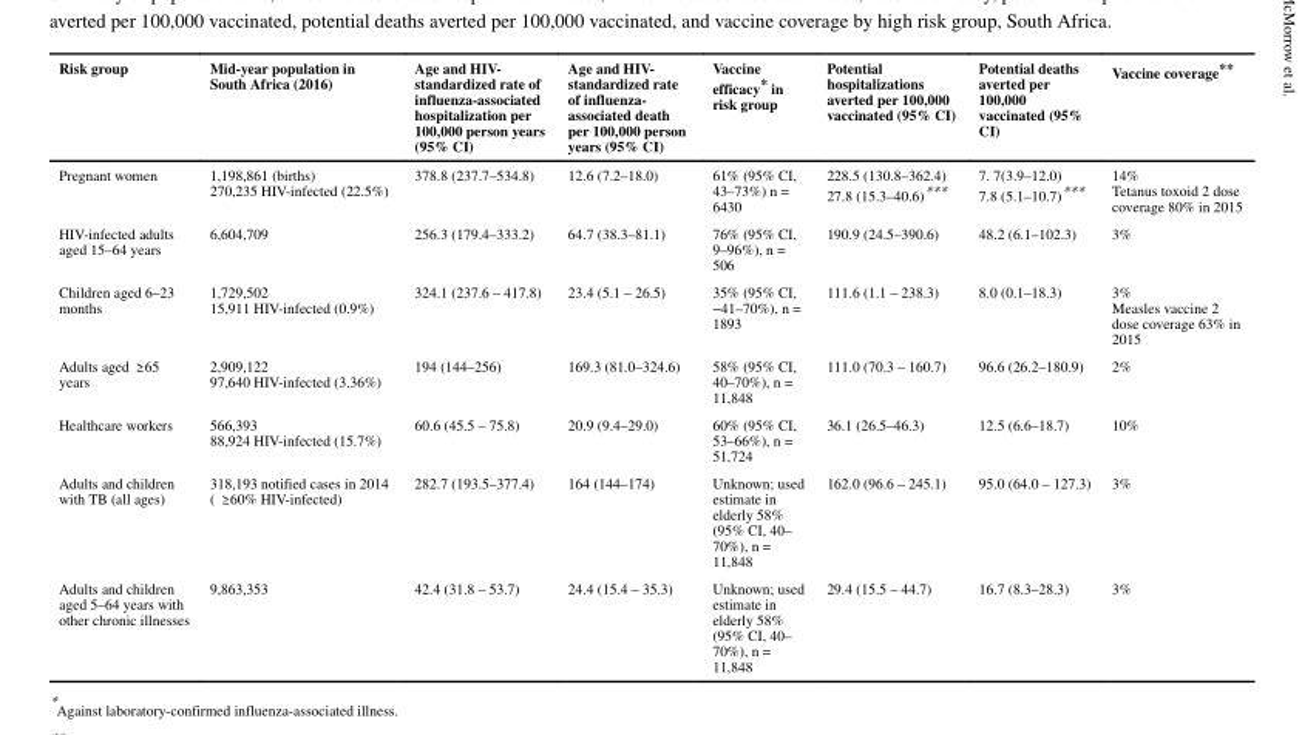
<table><thead><tr><td>Risk group</td><td>Mid-year population in South Africa (2016)</td><td>Age and HIV- standardized rate of influenza-associated hospitalization per 100,000 person years (95% CI)</td><td>Age and HIV- standardized rate of influenza- associated death per 100,000 person years (95% CI)</td><td>Vaccine efficacy* in risk group</td><td>Potential hospitalizations averted per 100,000 vaccinated (95% CI)</td><td>Potential deaths averted per 100,000 vaccinated (95% CI)</td><td>Vaccine coverage**</td></tr></thead><tbody><tr><td>Pregnant women</td><td>1,198,861 (births) 270,235 HIV-infected (22.5%)</td><td>378.8 (237.7–534.8)</td><td>12.6 (7.2–18.0)</td><td>61% (95% CI, 43–73%) n = 6430</td><td>228.5 (130.8–362.4) 27.8 (15.3–40.6)***</td><td>7. 7(3.9–12.0) 7.8 (5.1–10.7)***</td><td>14% Tetanus toxoid 2 dose coverage 80% in 2015</td></tr><tr><td>HIV-infected adults aged 15–64 years</td><td>6,604,709</td><td>256.3 (179.4–333.2)</td><td>64.7 (38.3–81.1)</td><td>76% (95% CI, 9–96%), n = 506</td><td>190.9 (24.5–390.6)</td><td>48.2 (6.1–102.3)</td><td>3%</td></tr><tr><td>Children aged 6–23 months</td><td>1,729,502 15,911 HIV-infected (0.9%)</td><td>324.1 (237.6 – 417.8)</td><td>23.4 (5.1 – 26.5)</td><td>35% (95% CI, −41–70%), n = 1893</td><td>111.6 (1.1 – 238.3)</td><td>8.0 (0.1–18.3)</td><td>3% Measles vaccine 2 dose coverage 63% in 2015</td></tr><tr><td>Adults aged ≥ 65 years</td><td>2,909,122 97,640 HIV-infected (3.36%)</td><td>194 (144–256)</td><td>169.3 (81.0–324.6)</td><td>58% (95% CI, 40–70%), n = 11,848</td><td>111.0 (70.3 – 160.7)</td><td>96.6 (26.2–180.9)</td><td>2%</td></tr><tr><td>Healthcare workers</td><td>566,393 88,924 HIV-infected (15.7%)</td><td>60.6 (45.5 – 75.8)</td><td>20.9 (9.4–29.0)</td><td>60% (95% CI, 53–66%), n = 51,724</td><td>36.1 (26.5–46.3)</td><td>12.5 (6.6–18.7)</td><td>10%</td></tr><tr><td>Adults and children with TB (all ages)</td><td>318,193 notified cases in 2014 ( ≥ 60% HIV-infected)</td><td>282.7 (193.5–377.4)</td><td>164 (144–174)</td><td>Unknown; used estimate in elderly 58% (95% CI, 40– 70%), n = 11,848</td><td>162.0 (96.6 – 245.1)</td><td>95.0 (64.0 – 127.3)</td><td>3%</td></tr><tr><td>Adults and children aged 5–64 years with other chronic illnesses</td><td>9,863,353</td><td>42.4 (31.8 – 53.7)</td><td>24.4 (15.4 – 35.3)</td><td>Unknown; used estimate in elderly 58% (95% CI, 40– 70%), n = 11,848</td><td>29.4 (15.5 – 44.7)</td><td>16.7 (8.3–28.3)</td><td>3%</td></tr></tbody></table>